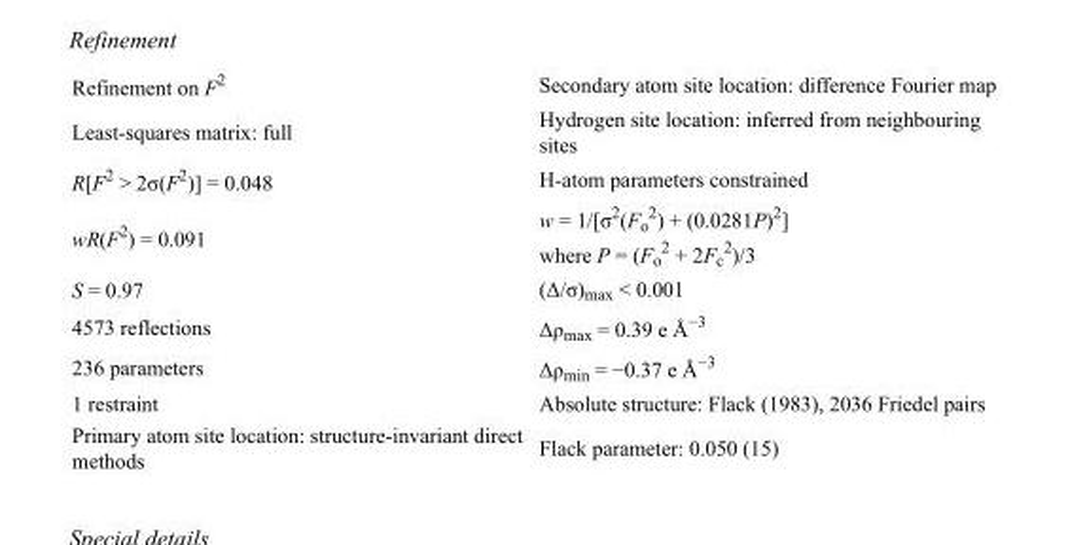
<table><tbody><tr><td>Refinement on F<sup>2</sup></td><td>Secondary atom site location: difference Fourier map</td></tr><tr><td>Least-squares matrix: full</td><td>Hydrogen site location: inferred from neighbouring sites</td></tr><tr><td>R[F<sup>2</sup> &gt; 2σ(F<sup>2</sup>)] = 0.048</td><td>H-atom parameters constrained</td></tr><tr><td>wR(F<sup>2</sup>) = 0.091</td><td>w = 1/[σ<sup>2</sup>(F<sub>o</sub> <sup>2</sup>) + (0.0281P)<sup>2</sup>] where P = (F<sub>o</sub> <sup>2</sup> + 2F<sub>c</sub> <sup>2</sup>)/3</td></tr><tr><td>S = 0.97</td><td>(Δ/σ)<sub>max</sub> &lt; 0.001</td></tr><tr><td>4573 reflections</td><td>Δρ<sub>max</sub> = 0.39 e Å<sup>−3</sup></td></tr><tr><td>236 parameters</td><td>Δρ<sub>min</sub> = −0.37 e Å<sup>−3</sup></td></tr><tr><td>1 restraint</td><td>Absolute structure: Flack (1983), 2036 Friedel pairs</td></tr><tr><td>Primary atom site location: structure-invariant direct methods</td><td>Flack parameter: 0.050 (15)</td></tr></tbody></table>